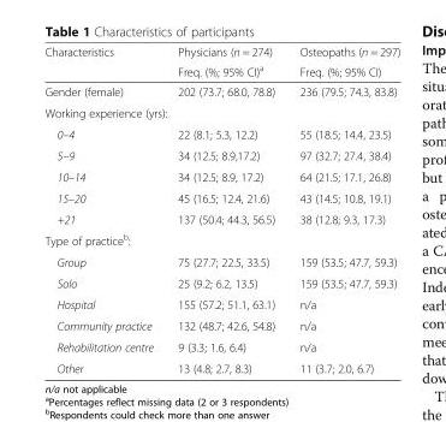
<table><thead><tr><td rowspan="2">Characteristics</td><td rowspan="2">Physicians (n = 274) Freq. (%; 95% CI)<sup>a</sup></td><td rowspan="2">Osteopaths (n = 297) Freq. (%; 95% CI)</td></tr><tr></tr></thead><tbody><tr><td>Gender (female)</td><td>202 (73.7; 68.0, 78.8)</td><td>236 (79.5; 74.3, 83.8)</td></tr><tr><td colspan="3">Working experience (yrs):</td></tr><tr><td>0–4</td><td>22 (8.1; 5.3, 12.2)</td><td>55 (18.5; 14.4, 23.5)</td></tr><tr><td>5–9</td><td>34 (12.5; 8.9,17.2)</td><td>97 (32.7; 27.4, 38.4)</td></tr><tr><td>10–14</td><td>34 (12.5; 8.9, 17.2)</td><td>64 (21.5; 17.1, 26.8)</td></tr><tr><td>15–20</td><td>45 (16.5; 12.4, 21.6)</td><td>43 (14.5; 10.8, 19.1)</td></tr><tr><td>+21</td><td>137 (50.4; 44.3, 56.5)</td><td>38 (12.8; 9.3, 17.3)</td></tr><tr><td colspan="3">Type of practice<sup>b</sup>:</td></tr><tr><td>Group</td><td>75 (27.7; 22.5, 33.5)</td><td>159 (53.5; 47.7, 59.3)</td></tr><tr><td>Solo</td><td>25 (9.2; 6.2, 13.5)</td><td>159 (53.5; 47.7, 59.3)</td></tr><tr><td>Hospital</td><td>155 (57.2; 51.1, 63.1)</td><td>n/a</td></tr><tr><td>Community practice</td><td>132 (48.7; 42.6, 54.8)</td><td>n/a</td></tr><tr><td>Rehabilitation centre</td><td>9 (3.3; 1.6, 6.4)</td><td>n/a</td></tr><tr><td>Other</td><td>13 (4.8; 2.7, 8.3)</td><td>11 (3.7; 2.0, 6.7)</td></tr></tbody></table>